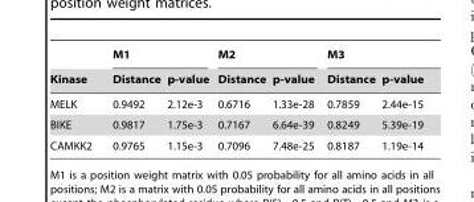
<table><thead><tr><td rowspan="2">Kinase</td><td colspan="2">M1</td><td colspan="2">M2</td><td colspan="2">M3</td></tr><tr><td>Distance</td><td>p-value</td><td>Distance</td><td>p-value</td><td>Distance</td><td>p-value</td></tr></thead><tbody><tr><td>MELK</td><td>0.9492</td><td>2.12e-3</td><td>0.6716</td><td>1.33e-28</td><td>0.7859</td><td>2.44e-15</td></tr><tr><td>BIKE</td><td>0.9817</td><td>1.75e-3</td><td>0.7167</td><td>6.64e-39</td><td>0.8249</td><td>5.39e-19</td></tr><tr><td>CAMKK2</td><td>0.9765</td><td>1.15e-3</td><td>0.7096</td><td>7.48e-25</td><td>0.8187</td><td>1.19e-14</td></tr></tbody></table>